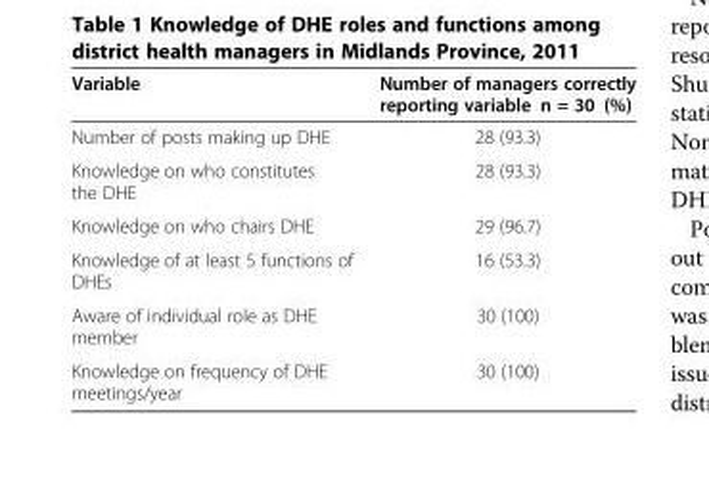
<table><thead><tr><td>Variable</td><td>Number of managers correctly reporting variable n = 30 (%)</td></tr></thead><tbody><tr><td>Number of posts making up DHE</td><td>28 (93.3)</td></tr><tr><td>Knowledge on who constitutes the DHE</td><td>28 (93.3)</td></tr><tr><td>Knowledge on who chairs DHE</td><td>29 (96.7)</td></tr><tr><td>Knowledge of at least 5 functions of DHEs</td><td>16 (53.3)</td></tr><tr><td>Aware of individual role as DHE member</td><td>30 (100)</td></tr><tr><td>Knowledge on frequency of DHE meetings/year</td><td>30 (100)</td></tr></tbody></table>